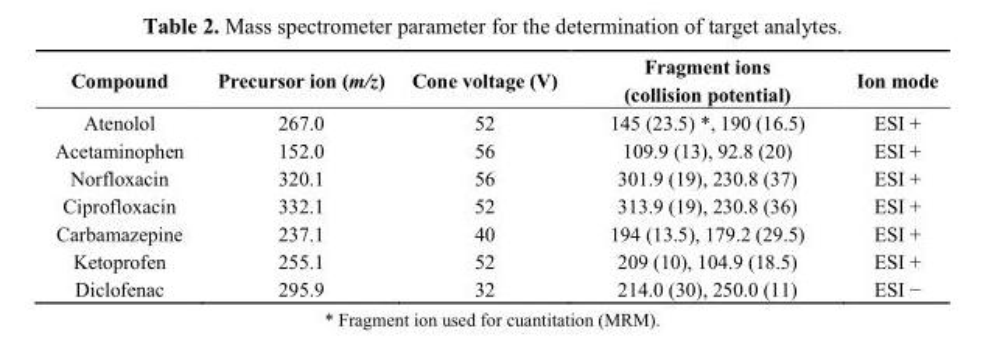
<table><thead><tr><td>Compound</td><td>Precursor ion (m/z)</td><td>Cone voltage (V)</td><td>Fragment ions (collision potential)</td><td>Ion mode</td></tr></thead><tbody><tr><td>Atenolol</td><td>267.0</td><td>52</td><td>145 (23.5) *, 190 (16.5)</td><td>ESI +</td></tr><tr><td>Acetaminophen</td><td>152.0</td><td>56</td><td>109.9 (13), 92.8 (20)</td><td>ESI +</td></tr><tr><td>Norfloxacin</td><td>320.1</td><td>56</td><td>301.9 (19), 230.8 (37)</td><td>ESI +</td></tr><tr><td>Ciprofloxacin</td><td>332.1</td><td>52</td><td>313.9 (19), 230.8 (36)</td><td>ESI +</td></tr><tr><td>Carbamazepine</td><td>237.1</td><td>40</td><td>194 (13.5), 179.2 (29.5)</td><td>ESI +</td></tr><tr><td>Ketoprofen</td><td>255.1</td><td>52</td><td>209 (10), 104.9 (18.5)</td><td>ESI +</td></tr><tr><td>Diclofenac</td><td>295.9</td><td>32</td><td>214.0 (30), 250.0 (11)</td><td>ESI −</td></tr></tbody></table>